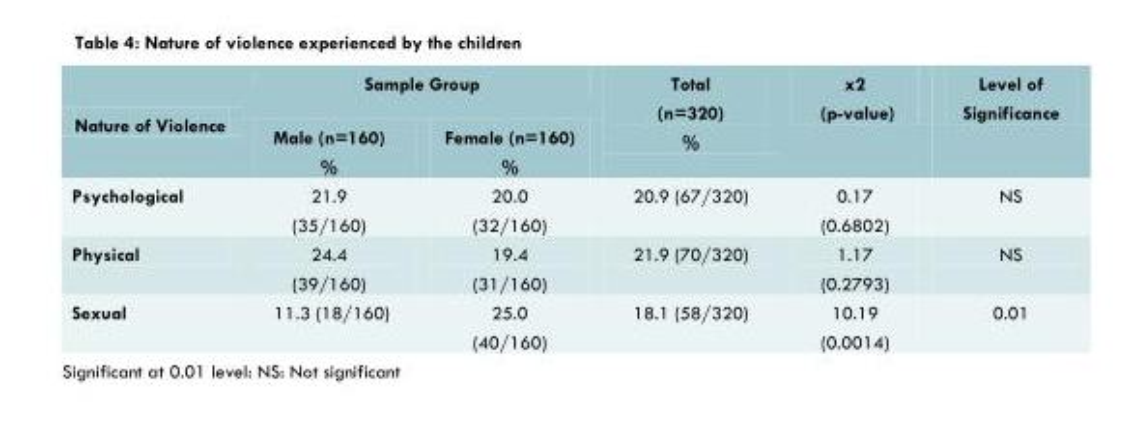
<table><thead><tr><td rowspan="2">Nature of Violence</td><td colspan="2">Sample Group</td><td rowspan="2">Total (n=320) %</td><td rowspan="2">x2 (p-value)</td><td rowspan="2">Level of Significance</td></tr><tr><td>Male (n=160) %</td><td>Female (n=160) %</td></tr></thead><tbody><tr><td>Psychological</td><td>21.9 (35/160)</td><td>20.0 (32/160)</td><td>20.9 (67/320)</td><td>0.17 (0.6802)</td><td>NS</td></tr><tr><td>Physical</td><td>24.4 (39/160)</td><td>19.4 (31/160)</td><td>21.9 (70/320)</td><td>1.17 (0.2793)</td><td>NS</td></tr><tr><td>Sexual</td><td>11.3 (18/160)</td><td>25.0 (40/160)</td><td>18.1 (58/320)</td><td>10.19 (0.0014)</td><td>0.01</td></tr></tbody></table>